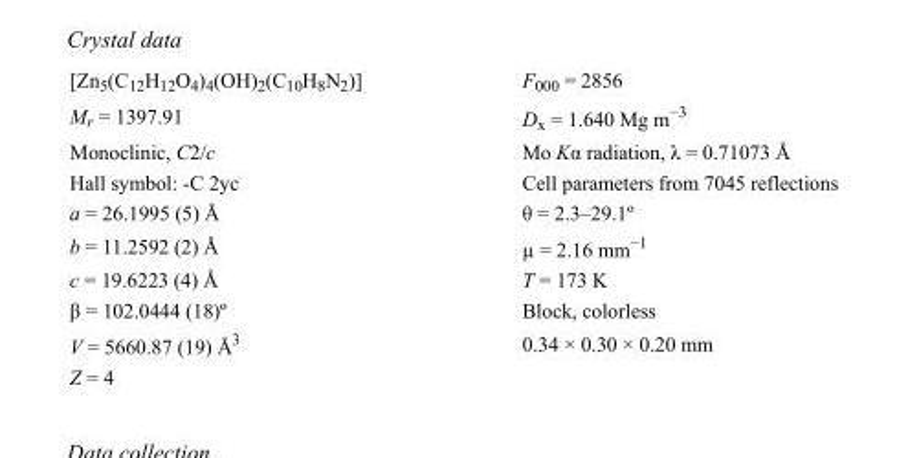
<table><tbody><tr><td>[Zn<sub>5</sub>(C<sub>12</sub>H<sub>12</sub>O<sub>4</sub>)<sub>4</sub>(OH)<sub>2</sub>(C<sub>10</sub>H<sub>8</sub>N<sub>2</sub>)]</td><td>F000 = 2856</td></tr><tr><td>M<sub>r</sub> = 1397.91</td><td>D<sub>x</sub> = 1.640 Mg m<sup>−3</sup></td></tr><tr><td>Monoclinic, C2/c</td><td>Mo Kα radiation, λ = 0.71073 Å</td></tr><tr><td>Hall symbol: -C 2yc</td><td>Cell parameters from 7045 reflections</td></tr><tr><td>a = 26.1995 (5) Å</td><td>θ = 2.3–29.1º</td></tr><tr><td>b = 11.2592 (2) Å</td><td>µ = 2.16 mm<sup>−1</sup></td></tr><tr><td>c = 19.6223 (4) Å</td><td>T = 173 K</td></tr><tr><td>β = 102.0444 (18)º</td><td>Block, colorless</td></tr><tr><td>V = 5660.87 (19) Å<sup>3</sup></td><td>0.34 × 0.30 × 0.20 mm</td></tr><tr><td>Z = 4</td><td></td></tr></tbody></table>